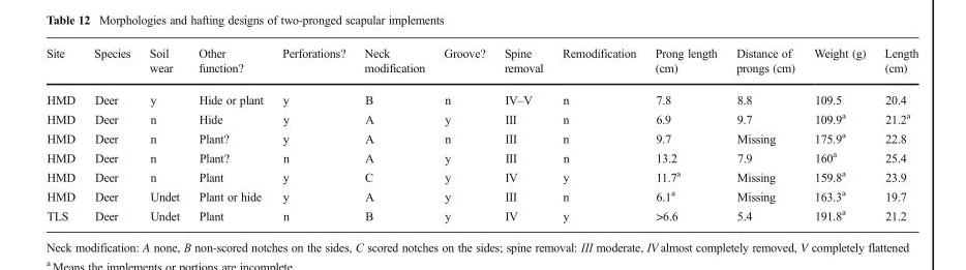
<table><thead><tr><td>Site</td><td>Species</td><td>Soil wear</td><td>Other function?</td><td>Perforations?</td><td>Neck modification</td><td>Groove?</td><td>Spine removal</td><td>Remodification</td><td>Prong length (cm)</td><td>Distance of prongs (cm)</td><td>Weight (g)</td><td>Length (cm)</td></tr></thead><tbody><tr><td>HMD</td><td>Deer</td><td>y</td><td>Hide or plant</td><td>y</td><td>B</td><td>n</td><td>IV–V</td><td>n</td><td>7.8</td><td>8.8</td><td>109.5</td><td>20.4</td></tr><tr><td>HMD</td><td>Deer</td><td>n</td><td>Hide</td><td>y</td><td>A</td><td>y</td><td>III</td><td>n</td><td>6.9</td><td>9.7</td><td>109.9<sup>a</sup></td><td>21.2<sup>a</sup></td></tr><tr><td>HMD</td><td>Deer</td><td>n</td><td>Plant?</td><td>y</td><td>A</td><td>n</td><td>III</td><td>n</td><td>9.7</td><td>Missing</td><td>175.9<sup>a</sup></td><td>22.8</td></tr><tr><td>HMD</td><td>Deer</td><td>n</td><td>Plant?</td><td>n</td><td>A</td><td>y</td><td>III</td><td>n</td><td>13.2</td><td>7.9</td><td>160<sup>a</sup></td><td>25.4</td></tr><tr><td>HMD</td><td>Deer</td><td>n</td><td>Plant</td><td>y</td><td>C</td><td>y</td><td>IV</td><td>y</td><td>11.7<sup>a</sup></td><td>Missing</td><td>159.8<sup>a</sup></td><td>23.9</td></tr><tr><td>HMD</td><td>Deer</td><td>Undet</td><td>Plant or hide</td><td>y</td><td>A</td><td>y</td><td>III</td><td>n</td><td>6.1<sup>a</sup></td><td>Missing</td><td>163.3<sup>a</sup></td><td>19.7</td></tr><tr><td>TLS</td><td>Deer</td><td>Undet</td><td>Plant</td><td>n</td><td>B</td><td>y</td><td>IV</td><td>y</td><td>&gt;6.6</td><td>5.4</td><td>191.8<sup>a</sup></td><td>21.2</td></tr></tbody></table>